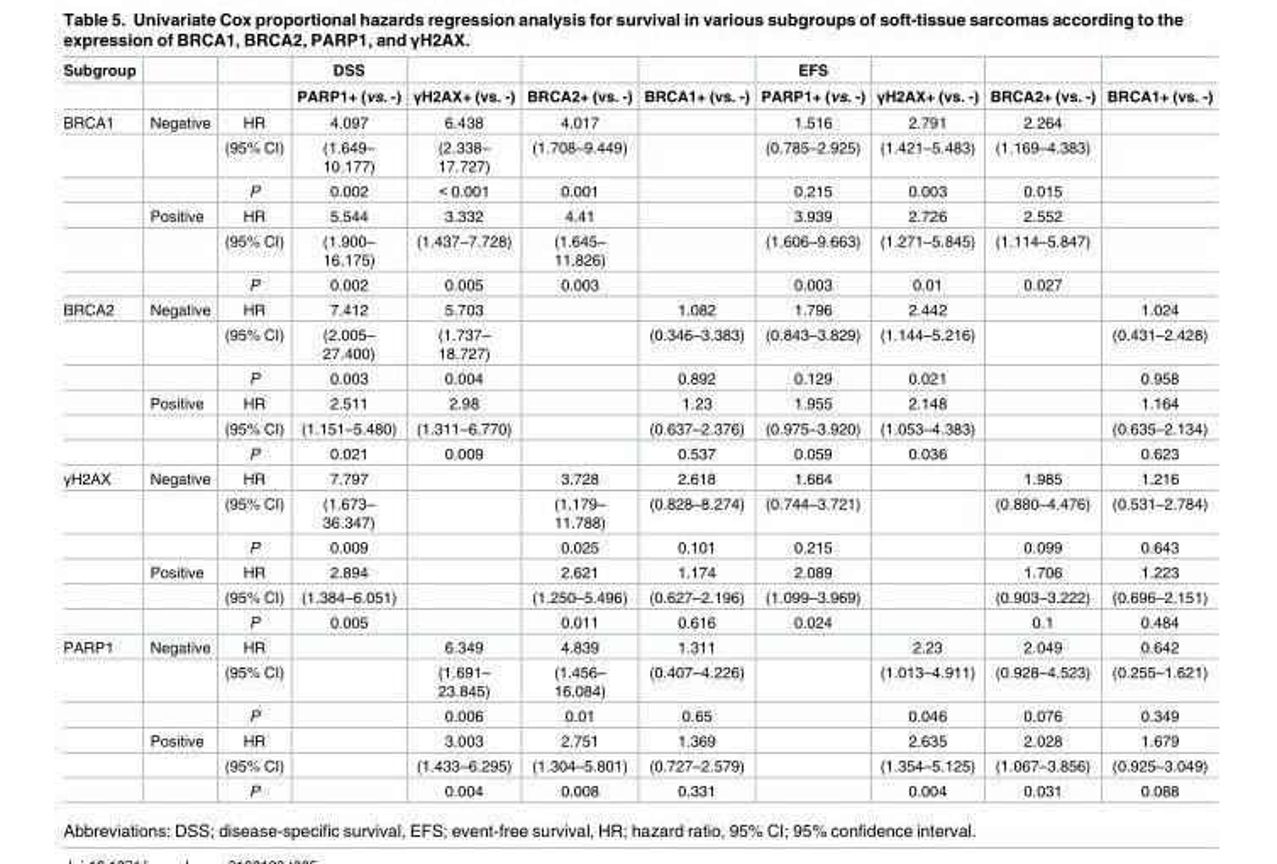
<table><thead><tr><td rowspan="2">Subgroup</td><td rowspan="2"></td><td rowspan="2"></td><td rowspan="2">DSS PARP1+ (vs. -)</td><td rowspan="2">γH2AX+ (vs. -)</td><td rowspan="2">BRCA2+ (vs. -)</td><td rowspan="2">BRCA1+ (vs. -)</td><td rowspan="2">EFS PARP1+ (vs. -)</td><td rowspan="2">γH2AX+ (vs. -)</td><td rowspan="2">BRCA2+ (vs. -)</td><td rowspan="2">BRCA1+ (vs. -)</td></tr><tr></tr></thead><tbody><tr><td rowspan="6">BRCA1</td><td>Negative</td><td>HR</td><td>4.097</td><td>6.438</td><td>4.017</td><td></td><td>1.516</td><td>2.791</td><td>2.264</td><td></td></tr><tr><td></td><td>(95% CI)</td><td>(1.649– 10.177)</td><td>(2.338– 17.727)</td><td>(1.708–9.449)</td><td></td><td>(0.785–2.925)</td><td>(1.421–5.483)</td><td>(1.169–4.383)</td><td></td></tr><tr><td></td><td>P</td><td>0.002</td><td>&lt; 0.001</td><td>0.001</td><td></td><td>0.215</td><td>0.003</td><td>0.015</td><td></td></tr><tr><td>Positive</td><td>HR</td><td>5.544</td><td>3.332</td><td>4.41</td><td></td><td>3.939</td><td>2.726</td><td>2.552</td><td></td></tr><tr><td></td><td>(95% CI)</td><td>(1.900– 16.175)</td><td>(1.437–7.728)</td><td>(1.645– 11.826)</td><td></td><td>(1.606–9.663)</td><td>(1.271–5.845)</td><td>(1.114–5.847)</td><td></td></tr><tr><td></td><td>P</td><td>0.002</td><td>0.005</td><td>0.003</td><td></td><td>0.003</td><td>0.01</td><td>0.027</td><td></td></tr><tr><td rowspan="6">BRCA2</td><td>Negative</td><td>HR</td><td>7.412</td><td>5.703</td><td></td><td>1.082</td><td>1.796</td><td>2.442</td><td></td><td>1.024</td></tr><tr><td></td><td>(95% CI)</td><td>(2.005– 27.400)</td><td>(1.737– 18.727)</td><td></td><td>(0.346–3.383)</td><td>(0.843–3.829)</td><td>(1.144–5.216)</td><td></td><td>(0.431–2.428)</td></tr><tr><td></td><td>P</td><td>0.003</td><td>0.004</td><td></td><td>0.892</td><td>0.129</td><td>0.021</td><td></td><td>0.958</td></tr><tr><td>Positive</td><td>HR</td><td>2.511</td><td>2.98</td><td></td><td>1.23</td><td>1.955</td><td>2.148</td><td></td><td>1.164</td></tr><tr><td></td><td>(95% CI)</td><td>(1.151–5.480)</td><td>(1.311–6.770)</td><td></td><td>(0.637–2.376)</td><td>(0.975–3.920)</td><td>(1.053–4.383)</td><td></td><td>(0.635–2.134)</td></tr><tr><td></td><td>P</td><td>0.021</td><td>0.009</td><td></td><td>0.537</td><td>0.059</td><td>0.036</td><td></td><td>0.623</td></tr><tr><td rowspan="6">γH2AX</td><td>Negative</td><td>HR</td><td>7.797</td><td></td><td>3.728</td><td>2.618</td><td>1.664</td><td></td><td>1.985</td><td>1.216</td></tr><tr><td></td><td>(95% CI)</td><td>(1.673– 36.347)</td><td></td><td>(1.179– 11.788)</td><td>(0.828–8.274)</td><td>(0.744–3.721)</td><td></td><td>(0.880–4.476)</td><td>(0.531–2.784)</td></tr><tr><td></td><td>P</td><td>0.009</td><td></td><td>0.025</td><td>0.101</td><td>0.215</td><td></td><td>0.099</td><td>0.643</td></tr><tr><td>Positive</td><td>HR</td><td>2.894</td><td></td><td>2.621</td><td>1.174</td><td>2.089</td><td></td><td>1.706</td><td>1.223</td></tr><tr><td></td><td>(95% CI)</td><td>(1.384–6.051)</td><td></td><td>(1.250–5.496)</td><td>(0.627–2.196)</td><td>(1.099–3.969)</td><td></td><td>(0.903–3.222)</td><td>(0.696–2.151)</td></tr><tr><td></td><td>P</td><td>0.005</td><td></td><td>0.011</td><td>0.616</td><td>0.024</td><td></td><td>0.1</td><td>0.484</td></tr><tr><td rowspan="6">PARP1</td><td>Negative</td><td>HR</td><td></td><td>6.349</td><td>4.839</td><td>1.311</td><td></td><td>2.23</td><td>2.049</td><td>0.642</td></tr><tr><td></td><td>(95% CI)</td><td></td><td>(1.691– 23.845)</td><td>(1.456– 16.084)</td><td>(0.407–4.226)</td><td></td><td>(1.013–4.911)</td><td>(0.928–4.523)</td><td>(0.255–1.621)</td></tr><tr><td></td><td>P</td><td></td><td>0.006</td><td>0.01</td><td>0.65</td><td></td><td>0.046</td><td>0.076</td><td>0.349</td></tr><tr><td>Positive</td><td>HR</td><td></td><td>3.003</td><td>2.751</td><td>1.369</td><td></td><td>2.635</td><td>2.028</td><td>1.679</td></tr><tr><td></td><td>(95% CI)</td><td></td><td>(1.433–6.295)</td><td>(1.304–5.801)</td><td>(0.727–2.579)</td><td></td><td>(1.354–5.125)</td><td>(1.067–3.856)</td><td>(0.925–3.049)</td></tr><tr><td></td><td>P</td><td></td><td>0.004</td><td>0.008</td><td>0.331</td><td></td><td>0.004</td><td>0.031</td><td>0.088</td></tr></tbody></table>